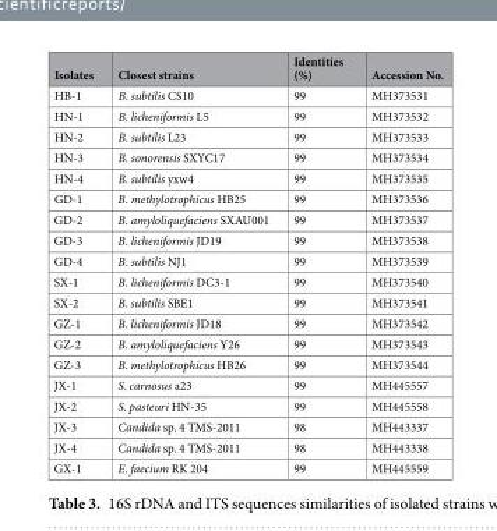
<table><thead><tr><td>Isolates</td><td>Closest strains</td><td>Identities (%)</td><td>Accession No.</td></tr></thead><tbody><tr><td>HB-1</td><td>B. subtilis CS10</td><td>99</td><td>MH373531</td></tr><tr><td>HN-1</td><td>B. licheniformis L5</td><td>99</td><td>MH373532</td></tr><tr><td>HN-2</td><td>B. subtilis L23</td><td>99</td><td>MH373533</td></tr><tr><td>HN-3</td><td>B. sonorensis SXYC17</td><td>99</td><td>MH373534</td></tr><tr><td>HN-4</td><td>B. subtilis yxw4</td><td>99</td><td>MH373535</td></tr><tr><td>GD-1</td><td>B. methylotrophicus HB25</td><td>99</td><td>MH373536</td></tr><tr><td>GD-2</td><td>B. amyloliquefaciens SXAU001</td><td>99</td><td>MH373537</td></tr><tr><td>GD-3</td><td>B. licheniformis JD19</td><td>99</td><td>MH373538</td></tr><tr><td>GD-4</td><td>B. subtilis NJ1</td><td>99</td><td>MH373539</td></tr><tr><td>SX-1</td><td>B. licheniformis DC3-1</td><td>99</td><td>MH373540</td></tr><tr><td>SX-2</td><td>B. subtilis SBE1</td><td>99</td><td>MH373541</td></tr><tr><td>GZ-1</td><td>B. licheniformis JD18</td><td>99</td><td>MH373542</td></tr><tr><td>GZ-2</td><td>B. amyloliquefaciens Y26</td><td>99</td><td>MH373543</td></tr><tr><td>GZ-3</td><td>B. methylotrophicus HB26</td><td>99</td><td>MH373544</td></tr><tr><td>JX-1</td><td>S. carnosus a23</td><td>99</td><td>MH445557</td></tr><tr><td>JX-2</td><td>S. pasteuri HN-35</td><td>99</td><td>MH445558</td></tr><tr><td>JX-3</td><td>Candida sp. 4 TMS-2011</td><td>98</td><td>MH443337</td></tr><tr><td>JX-4</td><td>Candida sp. 4 TMS-2011</td><td>98</td><td>MH443338</td></tr><tr><td>GX-1</td><td>E. faecium RK 204</td><td>99</td><td>MH445559</td></tr></tbody></table>